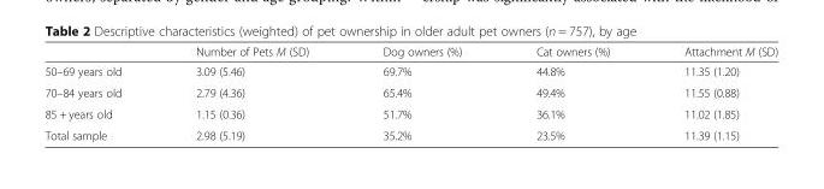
<table><thead><tr><td></td><td>Number of Pets M (SD)</td><td>Dog owners (%)</td><td>Cat owners (%)</td><td>Attachment M (SD)</td></tr></thead><tbody><tr><td>50–69 years old</td><td>3.09 (5.46)</td><td>69.7%</td><td>44.8%</td><td>11.35 (1.20)</td></tr><tr><td>70–84 years old</td><td>2.79 (4.36)</td><td>65.4%</td><td>49.4%</td><td>11.55 (0.88)</td></tr><tr><td>85 + years old</td><td>1.15 (0.36)</td><td>51.7%</td><td>36.1%</td><td>11.02 (1.85)</td></tr><tr><td>Total sample</td><td>2.98 (5.19)</td><td>35.2%</td><td>23.5%</td><td>11.39 (1.15)</td></tr></tbody></table>